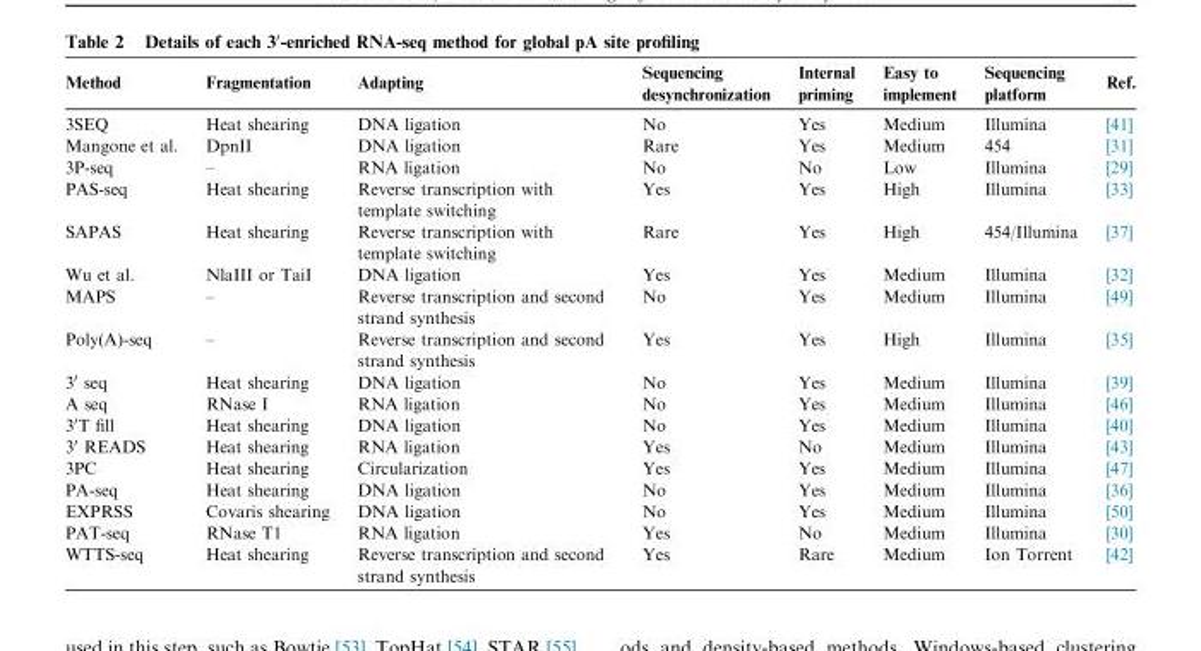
<table><thead><tr><td>Method</td><td>Fragmentation</td><td>Adapting</td><td>Sequencing desynchronization</td><td>Internal priming</td><td>Easy to implement</td><td>Sequencing platform</td><td>Ref.</td></tr></thead><tbody><tr><td>3SEQ</td><td>Heat shearing</td><td>DNA ligation</td><td>No</td><td>Yes</td><td>Medium</td><td>Illumina</td><td>[41]</td></tr><tr><td>Mangone et al.</td><td>DpnII</td><td>DNA ligation</td><td>Rare</td><td>Yes</td><td>Medium</td><td>454</td><td>[31]</td></tr><tr><td>3P-seq</td><td>–</td><td>RNA ligation</td><td>No</td><td>No</td><td>Low</td><td>Illumina</td><td>[29]</td></tr><tr><td>PAS-seq</td><td>Heat shearing</td><td>Reverse transcription with template switching</td><td>Yes</td><td>Yes</td><td>High</td><td>Illumina</td><td>[33]</td></tr><tr><td>SAPAS</td><td>Heat shearing</td><td>Reverse transcription with template switching</td><td>Rare</td><td>Yes</td><td>High</td><td>454/Illumina</td><td>[37]</td></tr><tr><td>Wu et al.</td><td>NlaIII or TaiI</td><td>DNA ligation</td><td>Yes</td><td>Yes</td><td>Medium</td><td>Illumina</td><td>[32]</td></tr><tr><td>MAPS</td><td>–</td><td>Reverse transcription and second strand synthesis</td><td>No</td><td>Yes</td><td>Medium</td><td>Illumina</td><td>[49]</td></tr><tr><td>Poly(A)-seq</td><td>–</td><td>Reverse transcription and second strand synthesis</td><td>Yes</td><td>Yes</td><td>High</td><td>Illumina</td><td>[35]</td></tr><tr><td>3′ seq</td><td>Heat shearing</td><td>DNA ligation</td><td>No</td><td>Yes</td><td>Medium</td><td>Illumina</td><td>[39]</td></tr><tr><td>A seq</td><td>RNase I</td><td>RNA ligation</td><td>No</td><td>Yes</td><td>Medium</td><td>Illumina</td><td>[46]</td></tr><tr><td>3′T fill</td><td>Heat shearing</td><td>DNA ligation</td><td>No</td><td>Yes</td><td>Medium</td><td>Illumina</td><td>[40]</td></tr><tr><td>3′ READS</td><td>Heat shearing</td><td>RNA ligation</td><td>Yes</td><td>No</td><td>Medium</td><td>Illumina</td><td>[43]</td></tr><tr><td>3PC</td><td>Heat shearing</td><td>Circularization</td><td>Yes</td><td>Yes</td><td>Medium</td><td>Illumina</td><td>[47]</td></tr><tr><td>PA-seq</td><td>Heat shearing</td><td>DNA ligation</td><td>No</td><td>Yes</td><td>Medium</td><td>Illumina</td><td>[36]</td></tr><tr><td>EXPRSS</td><td>Covaris shearing</td><td>DNA ligation</td><td>No</td><td>Yes</td><td>Medium</td><td>Illumina</td><td>[50]</td></tr><tr><td>PAT-seq</td><td>RNase T1</td><td>RNA ligation</td><td>Yes</td><td>No</td><td>Medium</td><td>Illumina</td><td>[30]</td></tr><tr><td>WTTS-seq</td><td>Heat shearing</td><td>Reverse transcription and second strand synthesis</td><td>Yes</td><td>Rare</td><td>Medium</td><td>Ion Torrent</td><td>[42]</td></tr></tbody></table>